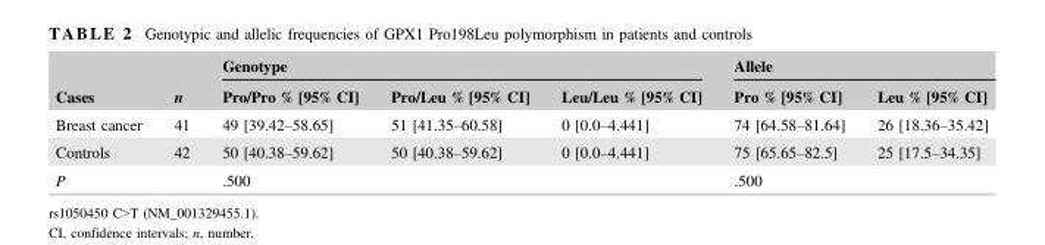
<table><thead><tr><td rowspan="2">Cases</td><td rowspan="2">n</td><td colspan="3">Genotype</td><td colspan="2">Allele</td></tr><tr><td>Pro/Pro % [95% CI]</td><td>Pro/Leu % [95% CI]</td><td>Leu/Leu % [95% CI]</td><td>Pro % [95% CI]</td><td>Leu % [95% CI]</td></tr></thead><tbody><tr><td>Breast cancer</td><td>41</td><td>49 [39.42–58.65]</td><td>51 [41.35–60.58]</td><td>0 [0.0–4.441]</td><td>74 [64.58–81.64]</td><td>26 [18.36–35.42]</td></tr><tr><td>Controls</td><td>42</td><td>50 [40.38–59.62]</td><td>50 [40.38–59.62]</td><td>0 [0.0–4.441]</td><td>75 [65.65–82.5]</td><td>25 [17.5–34.35]</td></tr><tr><td>P</td><td></td><td colspan="3">.500</td><td colspan="2">.500</td></tr></tbody></table>